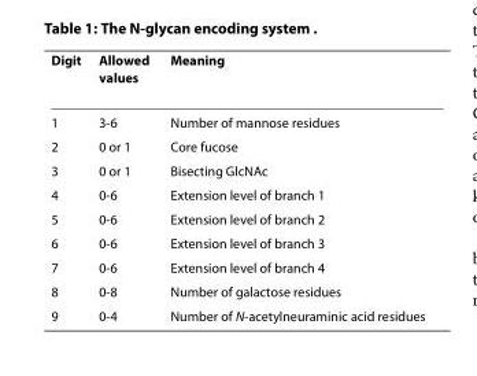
<table><thead><tr><td>Digit</td><td>Allowed values</td><td>Meaning</td></tr></thead><tbody><tr><td>1</td><td>3-6</td><td>Number of mannose residues</td></tr><tr><td>2</td><td>0 or 1</td><td>Core fucose</td></tr><tr><td>3</td><td>0 or 1</td><td>Bisecting GlcNAc</td></tr><tr><td>4</td><td>0-6</td><td>Extension level of branch 1</td></tr><tr><td>5</td><td>0-6</td><td>Extension level of branch 2</td></tr><tr><td>6</td><td>0-6</td><td>Extension level of branch 3</td></tr><tr><td>7</td><td>0-6</td><td>Extension level of branch 4</td></tr><tr><td>8</td><td>0-8</td><td>Number of galactose residues</td></tr><tr><td>9</td><td>0-4</td><td>Number of N-acetylneuraminic acid residues</td></tr></tbody></table>